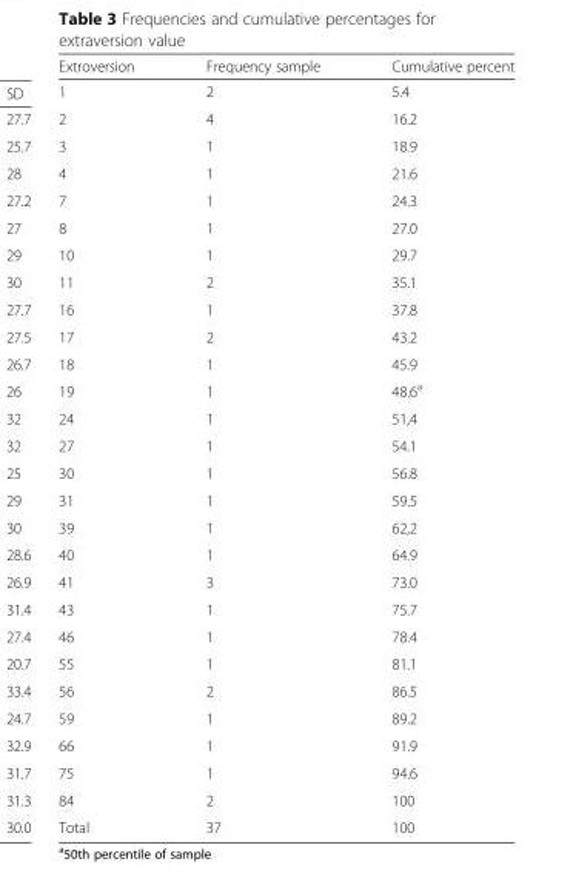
<table><thead><tr><td>Extroversion</td><td>Frequency sample</td><td>Cumulative percent</td></tr></thead><tbody><tr><td>1</td><td>2</td><td>5.4</td></tr><tr><td>2</td><td>4</td><td>16.2</td></tr><tr><td>3</td><td>1</td><td>18.9</td></tr><tr><td>4</td><td>1</td><td>21.6</td></tr><tr><td>7</td><td>1</td><td>24.3</td></tr><tr><td>8</td><td>1</td><td>27.0</td></tr><tr><td>10</td><td>1</td><td>29.7</td></tr><tr><td>11</td><td>2</td><td>35.1</td></tr><tr><td>16</td><td>1</td><td>37.8</td></tr><tr><td>17</td><td>2</td><td>43.2</td></tr><tr><td>18</td><td>1</td><td>45.9</td></tr><tr><td>19</td><td>1</td><td>48.6<sup>a</sup></td></tr><tr><td>24</td><td>1</td><td>51,4</td></tr><tr><td>27</td><td>1</td><td>54.1</td></tr><tr><td>30</td><td>1</td><td>56.8</td></tr><tr><td>31</td><td>1</td><td>59.5</td></tr><tr><td>39</td><td>1</td><td>62,2</td></tr><tr><td>40</td><td>1</td><td>64.9</td></tr><tr><td>41</td><td>3</td><td>73.0</td></tr><tr><td>43</td><td>1</td><td>75.7</td></tr><tr><td>46</td><td>1</td><td>78.4</td></tr><tr><td>55</td><td>1</td><td>81.1</td></tr><tr><td>56</td><td>2</td><td>86.5</td></tr><tr><td>59</td><td>1</td><td>89.2</td></tr><tr><td>66</td><td>1</td><td>91.9</td></tr><tr><td>75</td><td>1</td><td>94.6</td></tr><tr><td>84</td><td>2</td><td>100</td></tr><tr><td>Total</td><td>37</td><td>100</td></tr></tbody></table>